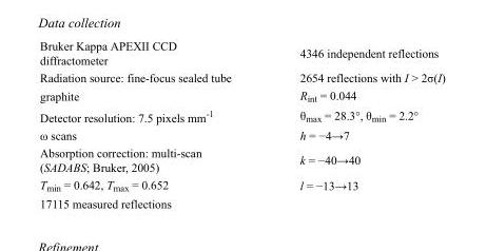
<table><tbody><tr><td>Bruker Kappa APEXII CCD diffractometer</td><td>4346 independent reflections</td></tr><tr><td>Radiation source: fine-focus sealed tube</td><td>2654 reflections with I &gt; 2σ(I)</td></tr><tr><td>graphite</td><td>R<sub>int</sub> = 0.044</td></tr><tr><td>Detector resolution: 7.5 pixels mm<sup>-1</sup></td><td>θ<sub>max</sub> = 28.3°, θ<sub>min</sub> = 2.2°</td></tr><tr><td>ω scans</td><td>h = −4→7</td></tr><tr><td>Absorption correction: multi-scan (SADABS; Bruker, 2005)</td><td>k = −40→40</td></tr><tr><td>T<sub>min</sub> = 0.642, T<sub>max</sub> = 0.652</td><td>l = −13→13</td></tr><tr><td>17115 measured reflections</td><td></td></tr></tbody></table>